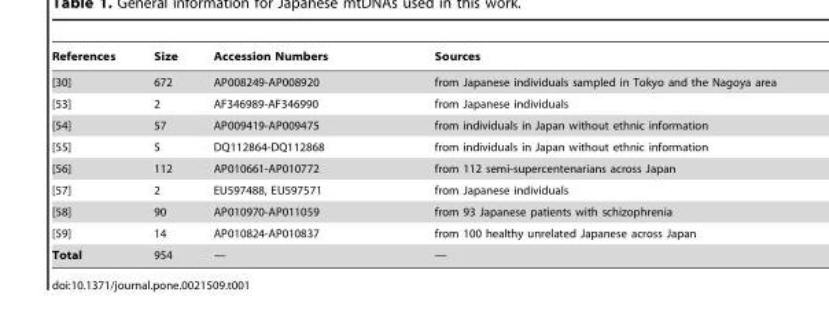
<table><thead><tr><td>References</td><td>Size</td><td>Accession Numbers</td><td>Sources</td></tr></thead><tbody><tr><td>[30]</td><td>672</td><td>AP008249-AP008920</td><td>from Japanese individuals sampled in Tokyo and the Nagoya area</td></tr><tr><td>[53]</td><td>2</td><td>AF346989-AF346990</td><td>from Japanese individuals</td></tr><tr><td>[54]</td><td>57</td><td>AP009419-AP009475</td><td>from individuals in Japan without ethnic information</td></tr><tr><td>[55]</td><td>5</td><td>DQ112864-DQ112868</td><td>from individuals in Japan without ethnic information</td></tr><tr><td>[56]</td><td>112</td><td>AP010661-AP010772</td><td>from 112 semi-supercentenarians across Japan</td></tr><tr><td>[57]</td><td>2</td><td>EU597488, EU597571</td><td>from Japanese individuals</td></tr><tr><td>[58]</td><td>90</td><td>AP010970-AP011059</td><td>from 93 Japanese patients with schizophrenia</td></tr><tr><td>[59]</td><td>14</td><td>AP010824-AP010837</td><td>from 100 healthy unrelated Japanese across Japan</td></tr><tr><td>Total</td><td>954</td><td>—</td><td>—</td></tr></tbody></table>